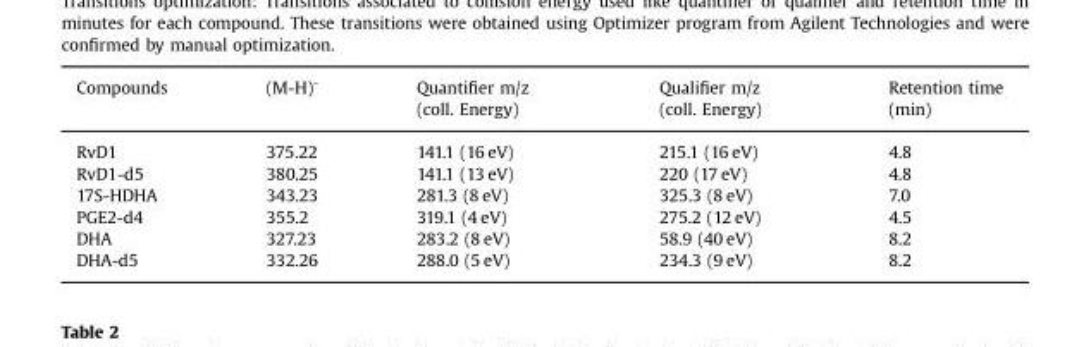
<table><thead><tr><td>Compounds</td><td>(M-H)<sup>-</sup></td><td>Quantifier m/z (coll. Energy)</td><td>Qualifier m/z (coll. Energy)</td><td>Retention time (min)</td></tr></thead><tbody><tr><td>RvD1</td><td>375.22</td><td>141.1 (16 eV)</td><td>215.1 (16 eV)</td><td>4.8</td></tr><tr><td>RvD1-d5</td><td>380.25</td><td>141.1 (13 eV)</td><td>220 (17 eV)</td><td>4.8</td></tr><tr><td>17S-HDHA</td><td>343.23</td><td>281.3 (8 eV)</td><td>325.3 (8 eV)</td><td>7.0</td></tr><tr><td>PGE2-d4</td><td>355.2</td><td>319.1 (4 eV)</td><td>275.2 (12 eV)</td><td>4.5</td></tr><tr><td>DHA</td><td>327.23</td><td>283.2 (8 eV)</td><td>58.9 (40 eV)</td><td>8.2</td></tr><tr><td>DHA-d5</td><td>332.26</td><td>288.0 (5 eV)</td><td>234.3 (9 eV)</td><td>8.2</td></tr></tbody></table>